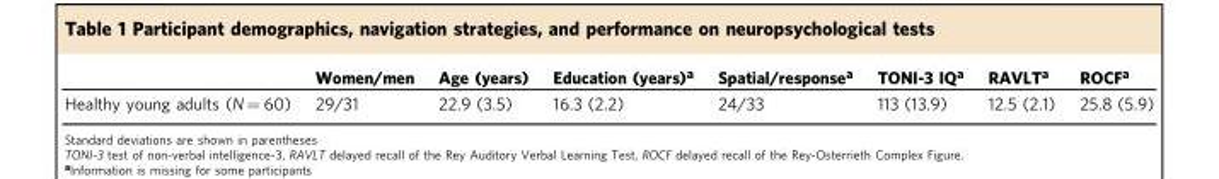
<table><thead><tr><td></td><td>Women/men</td><td>Age (years)</td><td>Education (years)<sup>a</sup></td><td>Spatial/response<sup>a</sup></td><td>TONI-3 IQ<sup>a</sup></td><td>RAVLT<sup>a</sup></td><td>ROCF<sup>a</sup></td></tr></thead><tbody><tr><td>Healthy young adults (N = 60)</td><td>29/31</td><td>22.9 (3.5)</td><td>16.3 (2.2)</td><td>24/33</td><td>113 (13.9)</td><td>12.5 (2.1)</td><td>25.8 (5.9)</td></tr></tbody></table>